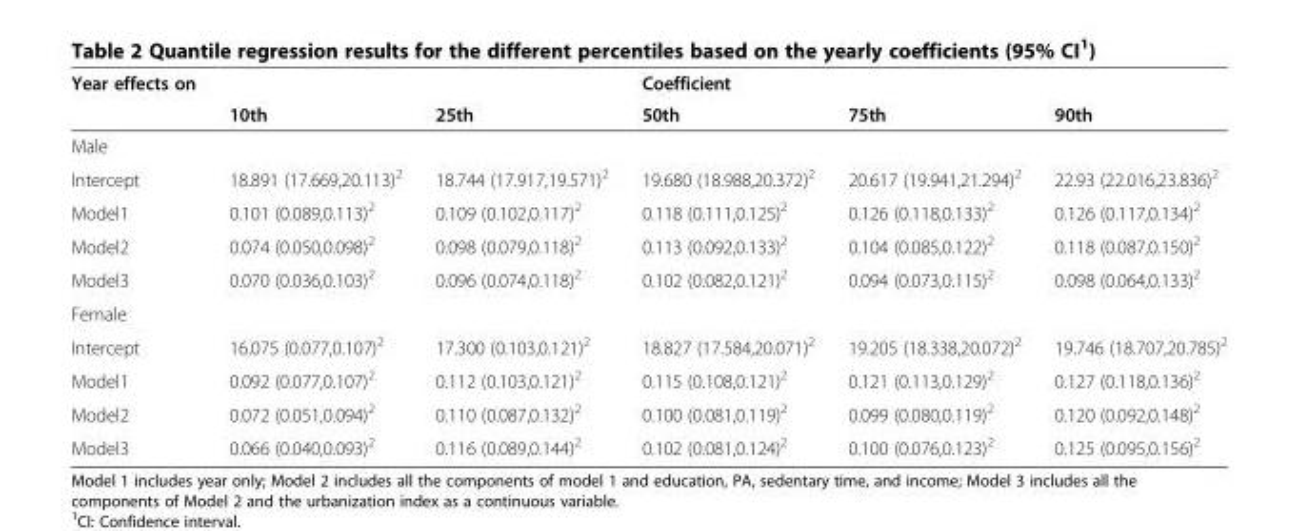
<table><thead><tr><td rowspan="2">Year effects on</td><td rowspan="2">10th</td><td rowspan="2">25th</td><td rowspan="2">Coefficient 50th</td><td rowspan="2">75th</td><td rowspan="2">90th</td></tr><tr></tr></thead><tbody><tr><td colspan="6">Male</td></tr><tr><td>Intercept</td><td>18.891 (17.669,20.113)<sup>2</sup></td><td>18.744 (17.917,19.571)<sup>2</sup></td><td>19.680 (18.988,20.372)<sup>2</sup></td><td>20.617 (19.941,21.294)<sup>2</sup></td><td>22.93 (22.016,23.836)<sup>2</sup></td></tr><tr><td>Model1</td><td>0.101 (0.089,0.113)<sup>2</sup></td><td>0.109 (0.102,0.117)<sup>2</sup></td><td>0.118 (0.111,0.125)<sup>2</sup></td><td>0.126 (0.118,0.133)<sup>2</sup></td><td>0.126 (0.117,0.134)<sup>2</sup></td></tr><tr><td>Model2</td><td>0.074 (0.050,0.098)<sup>2</sup></td><td>0.098 (0.079,0.118)<sup>2</sup></td><td>0.113 (0.092,0.133)<sup>2</sup></td><td>0.104 (0.085,0.122)<sup>2</sup></td><td>0.118 (0.087,0.150)<sup>2</sup></td></tr><tr><td>Model3</td><td>0.070 (0.036,0.103)<sup>2</sup></td><td>0.096 (0.074,0.118)<sup>2</sup></td><td>0.102 (0.082,0.121)<sup>2</sup></td><td>0.094 (0.073,0.115)<sup>2</sup></td><td>0.098 (0.064,0.133)<sup>2</sup></td></tr><tr><td colspan="6">Female</td></tr><tr><td>Intercept</td><td>16.075 (0.077,0.107)<sup>2</sup></td><td>17.300 (0.103,0.121)<sup>2</sup></td><td>18.827 (17.584,20.071)<sup>2</sup></td><td>19.205 (18.338,20.072)<sup>2</sup></td><td>19.746 (18.707,20.785)<sup>2</sup></td></tr><tr><td>Model1</td><td>0.092 (0.077,0.107)<sup>2</sup></td><td>0.112 (0.103,0.121)<sup>2</sup></td><td>0.115 (0.108,0.121)<sup>2</sup></td><td>0.121 (0.113,0.129)<sup>2</sup></td><td>0.127 (0.118,0.136)<sup>2</sup></td></tr><tr><td>Model2</td><td>0.072 (0.051,0.094)<sup>2</sup></td><td>0.110 (0.087,0.132)<sup>2</sup></td><td>0.100 (0.081,0.119)<sup>2</sup></td><td>0.099 (0.080,0.119)<sup>2</sup></td><td>0.120 (0.092,0.148)<sup>2</sup></td></tr><tr><td>Model3</td><td>0.066 (0.040,0.093)<sup>2</sup></td><td>0.116 (0.089,0.144)<sup>2</sup></td><td>0.102 (0.081,0.124)<sup>2</sup></td><td>0.100 (0.076,0.123)<sup>2</sup></td><td>0.125 (0.095,0.156)<sup>2</sup></td></tr></tbody></table>